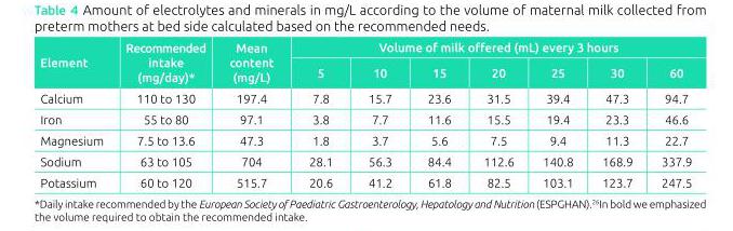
<table><thead><tr><td rowspan="2">Element</td><td rowspan="2">Recommended intake (mg/day)*</td><td rowspan="2">Mean content (mg/L)</td><td colspan="7">Volume of milk offered (mL) every 3 hours</td></tr><tr><td>5</td><td>10</td><td>15</td><td>20</td><td>25</td><td>30</td><td>60</td></tr></thead><tbody><tr><td>Calcium</td><td>110 to 130</td><td>197.4</td><td>7.8</td><td>15.7</td><td>23.6</td><td>31.5</td><td>39.4</td><td>47.3</td><td>94.7</td></tr><tr><td>Iron</td><td>55 to 80</td><td>97.1</td><td>3.8</td><td>7.7</td><td>11.6</td><td>15.5</td><td>19.4</td><td>23.3</td><td>46.6</td></tr><tr><td>Magnesium</td><td>7.5 to 13.6</td><td>47.3</td><td>1.8</td><td>3.7</td><td>5.6</td><td>7.5</td><td>9.4</td><td>11.3</td><td>22.7</td></tr><tr><td>Sodium</td><td>63 to 105</td><td>704</td><td>28.1</td><td>56.3</td><td>84.4</td><td>112.6</td><td>140.8</td><td>168.9</td><td>337.9</td></tr><tr><td>Potassium</td><td>60 to 120</td><td>515.7</td><td>20.6</td><td>41.2</td><td>61.8</td><td>82.5</td><td>103.1</td><td>123.7</td><td>247.5</td></tr></tbody></table>